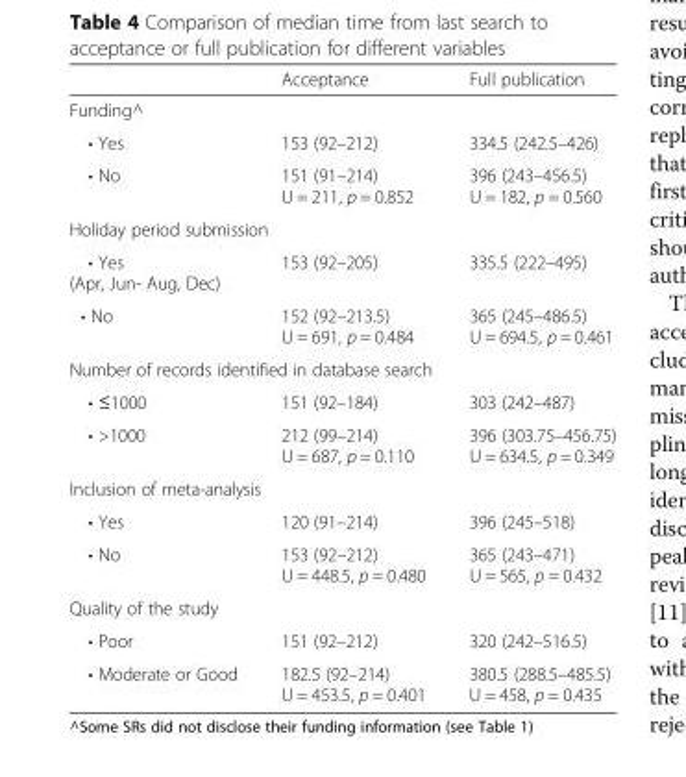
<table><thead><tr><td></td><td>Acceptance</td><td>Full publication</td></tr></thead><tbody><tr><td colspan="3">Funding^</td></tr><tr><td>• Yes</td><td>153 (92–212)</td><td>334.5 (242.5–426)</td></tr><tr><td>• No</td><td>151 (91–214) U = 211, p = 0.852</td><td>396 (243–456.5) U = 182, p = 0.560</td></tr><tr><td colspan="3">Holiday period submission</td></tr><tr><td>• Yes (Apr, Jun- Aug, Dec)</td><td>153 (92–205)</td><td>335.5 (222–495)</td></tr><tr><td>• No</td><td>152 (92–213.5) U = 691, p = 0.484</td><td>365 (245–486.5) U = 694.5, p = 0.461</td></tr><tr><td colspan="3">Number of records identified in database search</td></tr><tr><td>• ≤1000</td><td>151 (92–184)</td><td>303 (242–487)</td></tr><tr><td>• &gt;1000</td><td>212 (99–214) U = 687, p = 0.110</td><td>396 (303.75–456.75) U = 634.5, p = 0.349</td></tr><tr><td colspan="3">Inclusion of meta-analysis</td></tr><tr><td>• Yes</td><td>120 (91–214)</td><td>396 (245–518)</td></tr><tr><td>• No</td><td>153 (92–212) U = 448.5, p = 0.480</td><td>365 (243–471) U = 565, p = 0.432</td></tr><tr><td colspan="3">Quality of the study</td></tr><tr><td>• Poor</td><td>151 (92–212)</td><td>320 (242–516.5)</td></tr><tr><td>• Moderate or Good</td><td>182.5 (92–214) U = 453.5, p = 0.401</td><td>380.5 (288.5–485.5) U = 458, p = 0.435</td></tr></tbody></table>